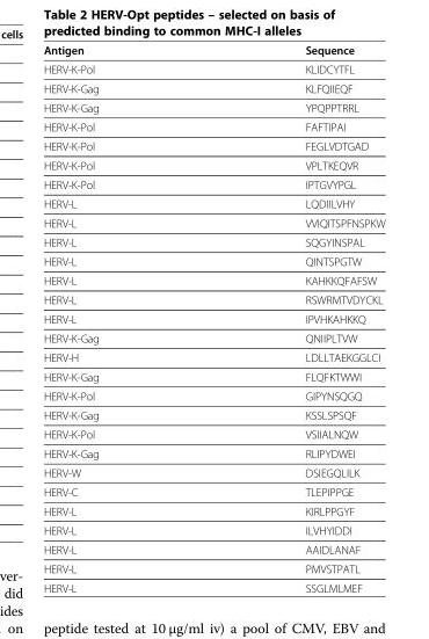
<table><thead><tr><td>Antigen</td><td>Sequence</td></tr></thead><tbody><tr><td>HERV-K-Pol</td><td>KLIDCYTFL</td></tr><tr><td>HERV-K-Gag</td><td>KLFQIIEQF</td></tr><tr><td>HERV-K-Gag</td><td>YPQPPTRRL</td></tr><tr><td>HERV-K-Pol</td><td>FAFTIPAI</td></tr><tr><td>HERV-K-Pol</td><td>FEGLVDTGAD</td></tr><tr><td>HERV-K-Pol</td><td>VPLTKEQVR</td></tr><tr><td>HERV-K-Pol</td><td>IPTGVYPGL</td></tr><tr><td>HERV-L</td><td>LQDIILVHY</td></tr><tr><td>HERV-L</td><td>VVIQITSPFNSPKW</td></tr><tr><td>HERV-L</td><td>SQGYINSPAL</td></tr><tr><td>HERV-L</td><td>QINTSPGTW</td></tr><tr><td>HERV-L</td><td>KAHKKQFAFSW</td></tr><tr><td>HERV-L</td><td>RSWRMTVDYCKL</td></tr><tr><td>HERV-L</td><td>IPVHKAHKKQ</td></tr><tr><td>HERV-K-Gag</td><td>QNIIPLTVW</td></tr><tr><td>HERV-H</td><td>LDLLTAEKGGLCI</td></tr><tr><td>HERV-K-Gag</td><td>FLQFKTWWI</td></tr><tr><td>HERV-K-Pol</td><td>GIPYNSQGQ</td></tr><tr><td>HERV-K-Gag</td><td>KSSLSPSQF</td></tr><tr><td>HERV-K-Pol</td><td>VSIIALNQW</td></tr><tr><td>HERV-K-Gag</td><td>RLIPYDWEI</td></tr><tr><td>HERV-W</td><td>DSIEGQLILK</td></tr><tr><td>HERV-C</td><td>TLEPIPPGE</td></tr><tr><td>HERV-L</td><td>KIRLPPGYF</td></tr><tr><td>HERV-L</td><td>ILVHYIDDI</td></tr><tr><td>HERV-L</td><td>AAIDLANAF</td></tr><tr><td>HERV-L</td><td>PMVSTPATL</td></tr><tr><td>HERV-L</td><td>SSGLMLMEF</td></tr></tbody></table>